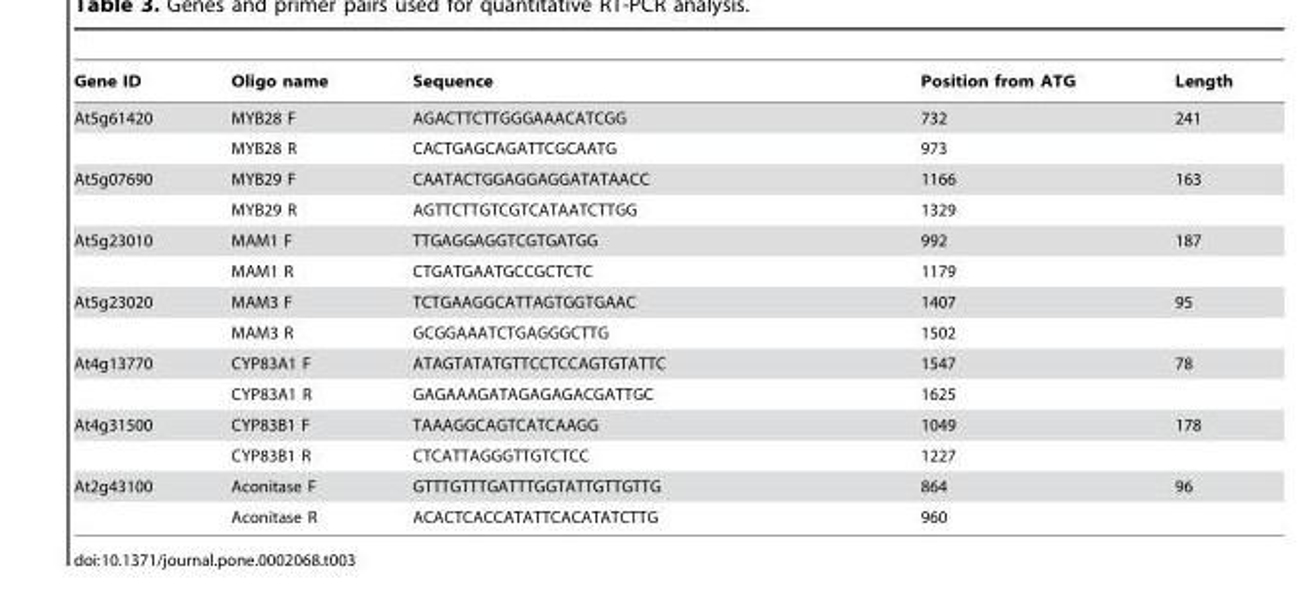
<table><thead><tr><td>Gene ID</td><td>Oligo name</td><td>Sequence</td><td>Position from ATG</td><td>Length</td></tr></thead><tbody><tr><td rowspan="2">At5g61420</td><td>MYB28 F</td><td>AGACTTCTTGGGAAACATCGG</td><td>732</td><td>241</td></tr><tr><td>MYB28 R</td><td>CACTGAGCAGATTCGCAATG</td><td>973</td><td></td></tr><tr><td rowspan="2">At5g07690</td><td>MYB29 F</td><td>CAATACTGGAGGAGGATATAACC</td><td>1166</td><td>163</td></tr><tr><td>MYB29 R</td><td>AGTTCTTGTCGTCATAATCTTGG</td><td>1329</td><td></td></tr><tr><td rowspan="2">At5g23010</td><td>MAM1 F</td><td>TTGAGGAGGTCGTGATGG</td><td>992</td><td>187</td></tr><tr><td>MAM1 R</td><td>CTGATGAATGCCGCTCTC</td><td>1179</td><td></td></tr><tr><td rowspan="2">At5g23020</td><td>MAM3 F</td><td>TCTGAAGGCATTAGTGGTGAAC</td><td>1407</td><td>95</td></tr><tr><td>MAM3 R</td><td>GCGGAAATCTGAGGGCTTG</td><td>1502</td><td></td></tr><tr><td rowspan="2">At4g13770</td><td>CYP83A1 F</td><td>ATAGTATATGTTCCTCCAGTGTATTC</td><td>1547</td><td>78</td></tr><tr><td>CYP83A1 R</td><td>GAGAAAGATAGAGAGACGATTGC</td><td>1625</td><td></td></tr><tr><td rowspan="2">At4g31500</td><td>CYP83B1 F</td><td>TAAAGGCAGTCATCAAGG</td><td>1049</td><td>178</td></tr><tr><td>CYP83B1 R</td><td>CTCATTAGGGTTGTCTCC</td><td>1227</td><td></td></tr><tr><td rowspan="2">At2g43100</td><td>Aconitase F</td><td>GTTTGTTTGATTTGGTATTGTTGTTG</td><td>864</td><td>96</td></tr><tr><td>Aconitase R</td><td>ACACTCACCATATTCACATATCTTG</td><td>960</td><td></td></tr></tbody></table>